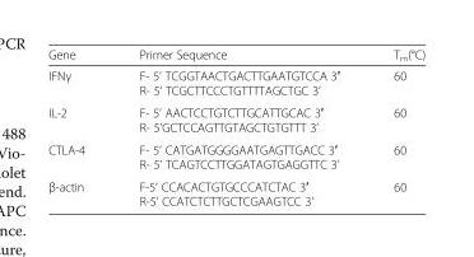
<table><thead><tr><td>Gene</td><td>Primer Sequence</td><td>T<sub>m</sub>(°C)</td></tr></thead><tbody><tr><td>IFNγ</td><td>F- 5’ TCGGTAACTGACTTGAATGTCCA 3′ R- 5’ TCGCTTCCCTGTTTTAGCTGC 3’</td><td>60</td></tr><tr><td>IL-2</td><td>F- 5’ AACTCCTGTCTTGCATTGCAC 3′ R- 5’GCTCCAGTTGTAGCTGTGTTT 3’</td><td>60</td></tr><tr><td>CTLA-4</td><td>F- 5’ CATGATGGGGAATGAGTTGACC 3′ R- 5’ TCAGTCCTTGGATAGTGAGGTTC 3’</td><td>60</td></tr><tr><td>β-actin</td><td>F-5’ CCACACTGTGCCCATCTAC 3′ R-5’ CCATCTCTTGCTCGAAGTCC 3’</td><td>60</td></tr></tbody></table>